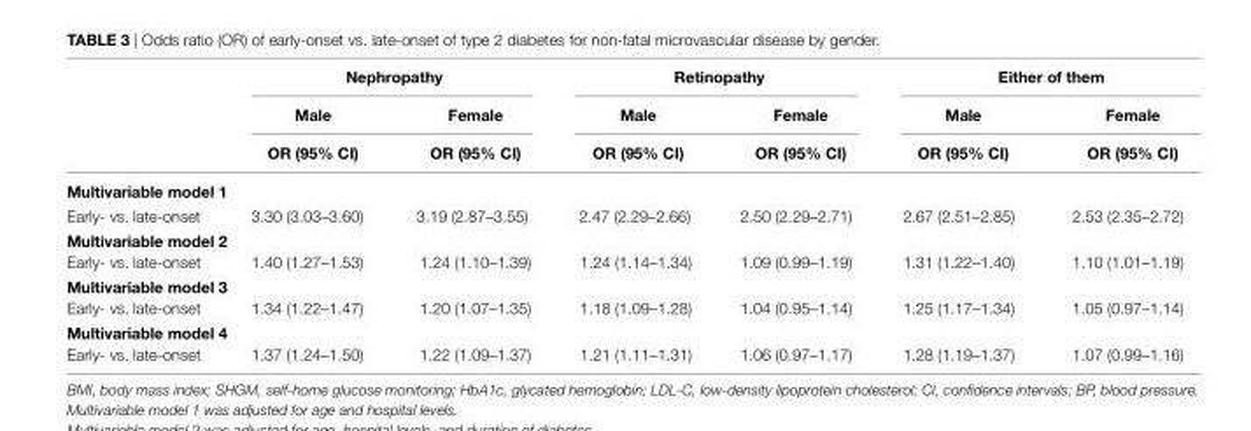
<table><thead><tr><td rowspan="3"></td><td colspan="2">nephropathy</td><td colspan="2">retinopathy</td><td colspan="2">either of them</td></tr><tr><td rowspan="2">Male Or (95% ci)</td><td rowspan="2">Female Or (95% ci)</td><td rowspan="2">Male Or (95% ci)</td><td rowspan="2">Female Or (95% ci)</td><td rowspan="2">Male Or (95% ci)</td><td rowspan="2">Female Or (95% ci)</td></tr><tr></tr></thead><tbody><tr><td colspan="7">Multivariable model 1</td></tr><tr><td>Early- vs. late-onset</td><td>3.30 (3.03–3.60)</td><td>3.19 (2.87–3.55)</td><td>2.47 (2.29–2.66)</td><td>2.50 (2.29–2.71)</td><td>2.67 (2.51–2.85)</td><td>2.53 (2.35–2.72)</td></tr><tr><td colspan="7">Multivariable model 2</td></tr><tr><td>Early- vs. late-onset</td><td>1.40 (1.27–1.53)</td><td>1.24 (1.10–1.39)</td><td>1.24 (1.14–1.34)</td><td>1.09 (0.99–1.19)</td><td>1.31 (1.22–1.40)</td><td>1.10 (1.01–1.19)</td></tr><tr><td colspan="7">Multivariable model 3</td></tr><tr><td>Early- vs. late-onset</td><td>1.34 (1.22–1.47)</td><td>1.20 (1.07–1.35)</td><td>1.18 (1.09–1.28)</td><td>1.04 (0.95–1.14)</td><td>1.25 (1.17–1.34)</td><td>1.05 (0.97–1.14)</td></tr><tr><td colspan="7">Multivariable model 4</td></tr><tr><td>Early- vs. late-onset</td><td>1.37 (1.24–1.50)</td><td>1.22 (1.09–1.37)</td><td>1.21 (1.11–1.31)</td><td>1.06 (0.97–1.17)</td><td>1.28 (1.19–1.37)</td><td>1.07 (0.99–1.16)</td></tr></tbody></table>